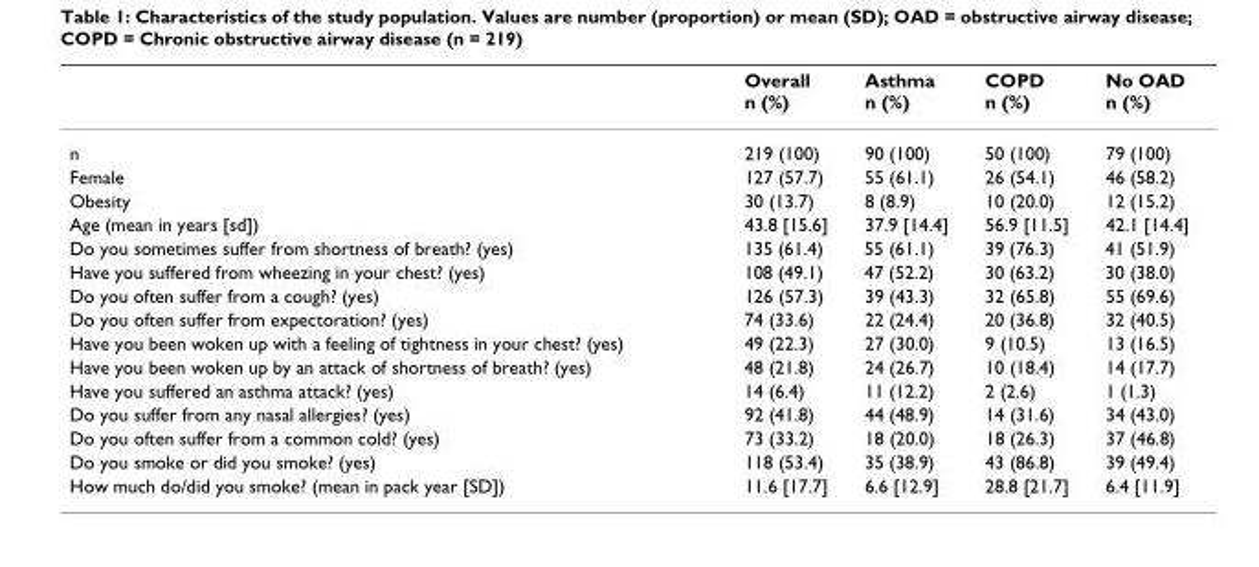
<table><thead><tr><td></td><td>Overall n (%)</td><td>Asthma n (%)</td><td>COPD n (%)</td><td>No OAD n (%)</td></tr></thead><tbody><tr><td>n</td><td>219 (100)</td><td>90 (100)</td><td>50 (100)</td><td>79 (100)</td></tr><tr><td>Female</td><td>127 (57.7)</td><td>55 (61.1)</td><td>26 (54.1)</td><td>46 (58.2)</td></tr><tr><td>Obesity</td><td>30 (13.7)</td><td>8 (8.9)</td><td>10 (20.0)</td><td>12 (15.2)</td></tr><tr><td>Age (mean in years [sd])</td><td>43.8 [15.6]</td><td>37.9 [14.4]</td><td>56.9 [11.5]</td><td>42.1 [14.4]</td></tr><tr><td>Do you sometimes suffer from shortness of breath? (yes)</td><td>135 (61.4)</td><td>55 (61.1)</td><td>39 (76.3)</td><td>41 (51.9)</td></tr><tr><td>Have you suffered from wheezing in your chest? (yes)</td><td>108 (49.1)</td><td>47 (52.2)</td><td>30 (63.2)</td><td>30 (38.0)</td></tr><tr><td>Do you often suffer from a cough? (yes)</td><td>126 (57.3)</td><td>39 (43.3)</td><td>32 (65.8)</td><td>55 (69.6)</td></tr><tr><td>Do you often suffer from expectoration? (yes)</td><td>74 (33.6)</td><td>22 (24.4)</td><td>20 (36.8)</td><td>32 (40.5)</td></tr><tr><td>Have you been woken up with a feeling of tightness in your chest? (yes)</td><td>49 (22.3)</td><td>27 (30.0)</td><td>9 (10.5)</td><td>13 (16.5)</td></tr><tr><td>Have you been woken up by an attack of shortness of breath? (yes)</td><td>48 (21.8)</td><td>24 (26.7)</td><td>10 (18.4)</td><td>14 (17.7)</td></tr><tr><td>Have you suffered an asthma attack? (yes)</td><td>14 (6.4)</td><td>11 (12.2)</td><td>2 (2.6)</td><td>1 (1.3)</td></tr><tr><td>Do you suffer from any nasal allergies? (yes)</td><td>92 (41.8)</td><td>44 (48.9)</td><td>14 (31.6)</td><td>34 (43.0)</td></tr><tr><td>Do you often suffer from a common cold? (yes)</td><td>73 (33.2)</td><td>18 (20.0)</td><td>18 (26.3)</td><td>37 (46.8)</td></tr><tr><td>Do you smoke or did you smoke? (yes)</td><td>118 (53.4)</td><td>35 (38.9)</td><td>43 (86.8)</td><td>39 (49.4)</td></tr><tr><td>How much do/did you smoke? (mean in pack year [SD])</td><td>11.6 [17.7]</td><td>6.6 [12.9]</td><td>28.8 [21.7]</td><td>6.4 [11.9]</td></tr></tbody></table>